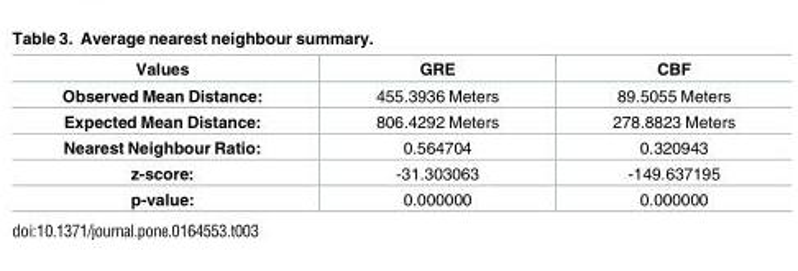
<table><thead><tr><td>Values</td><td>GRE</td><td>CBF</td></tr></thead><tbody><tr><td>Observed Mean Distance:</td><td>455.3936 Meters</td><td>89.5055 Meters</td></tr><tr><td>Expected Mean Distance:</td><td>806.4292 Meters</td><td>278.8823 Meters</td></tr><tr><td>Nearest Neighbour Ratio:</td><td>0.564704</td><td>0.320943</td></tr><tr><td>z-score:</td><td>-31.303063</td><td>-149.637195</td></tr><tr><td>p-value:</td><td>0.000000</td><td>0.000000</td></tr></tbody></table>